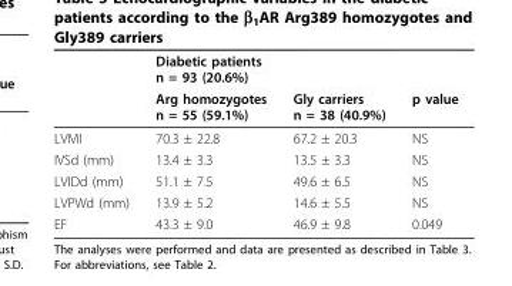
<table><thead><tr><td rowspan="2"></td><td colspan="2">Diabetic patients n = 93 (20.6%)</td><td rowspan="2">p value</td></tr><tr><td>Arg homozygotes n = 55 (59.1%)</td><td>Gly carriers n = 38 (40.9%)</td></tr></thead><tbody><tr><td>LVMI</td><td>70.3 ± 22.8</td><td>67.2 ± 20.3</td><td>NS</td></tr><tr><td>IVSd (mm)</td><td>13.4 ± 3.3</td><td>13.5 ± 3.3</td><td>NS</td></tr><tr><td>LVIDd (mm)</td><td>51.1 ± 7.5</td><td>49.6 ± 6.5</td><td>NS</td></tr><tr><td>LVPWd (mm)</td><td>13.9 ± 5.2</td><td>14.6 ± 5.5</td><td>NS</td></tr><tr><td>EF</td><td>43.3 ± 9.0</td><td>46.9 ± 9.8</td><td>0.049</td></tr></tbody></table>